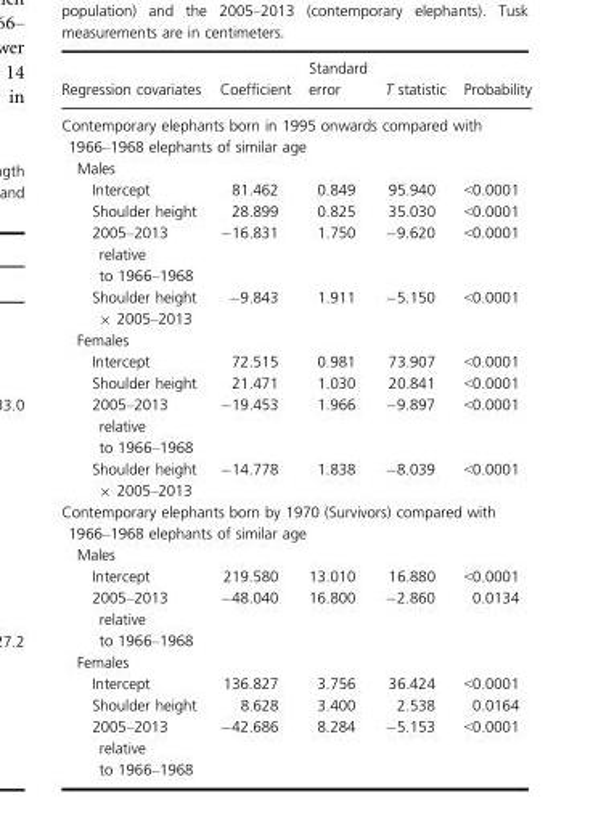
<table><thead><tr><td>Regression covariates</td><td>Coefficient</td><td>Standard error</td><td>T statistic</td><td>Probability</td></tr></thead><tbody><tr><td colspan="5">Contemporary elephants born in 1995 onwards compared with 1966–1968 elephants of similar age</td></tr><tr><td colspan="5">Males</td></tr><tr><td>Intercept</td><td>81.462</td><td>0.849</td><td>95.940</td><td>&lt;0.0001</td></tr><tr><td>Shoulder height</td><td>28.899</td><td>0.825</td><td>35.030</td><td>&lt;0.0001</td></tr><tr><td>2005–2013 relative to 1966–1968</td><td>−16.831</td><td>1.750</td><td>−9.620</td><td>&lt;0.0001</td></tr><tr><td>Shoulder height × 2005–2013</td><td>−9.843</td><td>1.911</td><td>−5.150</td><td>&lt;0.0001</td></tr><tr><td colspan="5">Females</td></tr><tr><td>Intercept</td><td>72.515</td><td>0.981</td><td>73.907</td><td>&lt;0.0001</td></tr><tr><td>Shoulder height</td><td>21.471</td><td>1.030</td><td>20.841</td><td>&lt;0.0001</td></tr><tr><td>2005–2013 relative to 1966–1968</td><td>−19.453</td><td>1.966</td><td>−9.897</td><td>&lt;0.0001</td></tr><tr><td>Shoulder height × 2005–2013</td><td>−14.778</td><td>1.838</td><td>−8.039</td><td>&lt;0.0001</td></tr><tr><td colspan="5">Contemporary elephants born by 1970 (Survivors) compared with 1966–1968 elephants of similar age</td></tr><tr><td colspan="5">Males</td></tr><tr><td>Intercept</td><td>219.580</td><td>13.010</td><td>16.880</td><td>&lt;0.0001</td></tr><tr><td>2005–2013 relative to 1966–1968</td><td>−48.040</td><td>16.800</td><td>−2.860</td><td>0.0134</td></tr><tr><td colspan="5">Females</td></tr><tr><td>Intercept</td><td>136.827</td><td>3.756</td><td>36.424</td><td>&lt;0.0001</td></tr><tr><td>Shoulder height</td><td>8.628</td><td>3.400</td><td>2.538</td><td>0.0164</td></tr><tr><td>2005–2013 relative to 1966–1968</td><td>−42.686</td><td>8.284</td><td>−5.153</td><td>&lt;0.0001</td></tr></tbody></table>